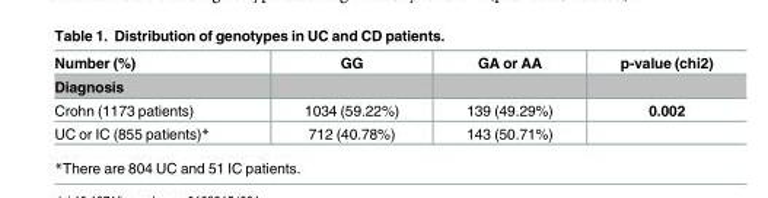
<table><thead><tr><td rowspan="2">Number (%) Diagnosis</td><td rowspan="2">GG</td><td rowspan="2">GA or AA</td><td rowspan="2">p-value (chi2)</td></tr><tr></tr></thead><tbody><tr><td>Crohn (1173 patients)</td><td>1034 (59.22%)</td><td>139 (49.29%)</td><td>0.002</td></tr><tr><td>UC or IC (855 patients)*</td><td>712 (40.78%)</td><td>143 (50.71%)</td><td></td></tr></tbody></table>